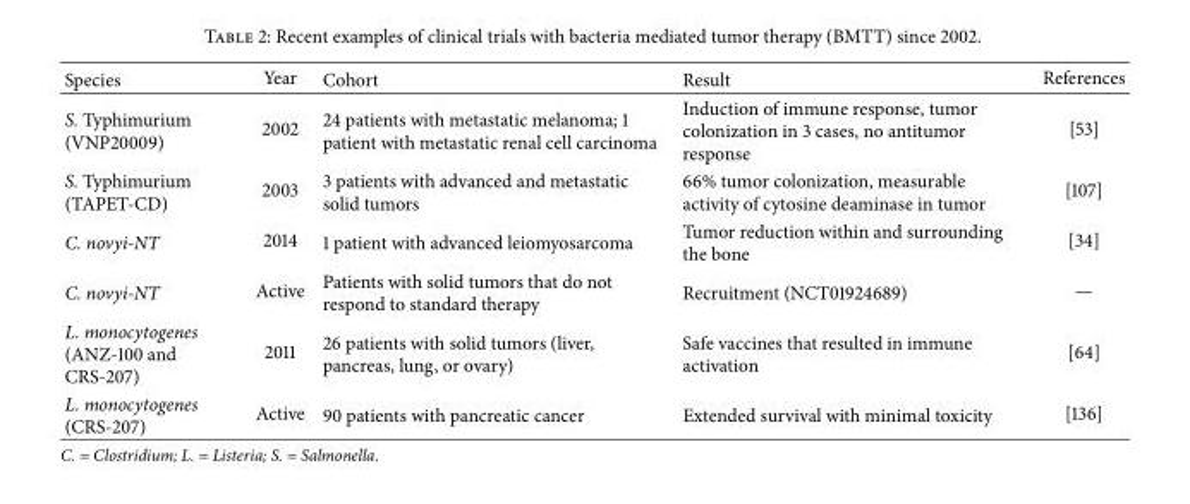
<table><thead><tr><td>Species</td><td>Year</td><td>Cohort</td><td>Result</td><td>References</td></tr></thead><tbody><tr><td>S. Typhimurium (VNP20009)</td><td>2002</td><td>24 patients with metastatic melanoma; 1 patient with metastatic renal cell carcinoma</td><td>Induction of immune response, tumor colonization in 3 cases, no antitumor response</td><td>[53]</td></tr><tr><td>S. Typhimurium (TAPET-CD)</td><td>2003</td><td>3 patients with advanced and metastatic solid tumors</td><td>66% tumor colonization, measurable activity of cytosine deaminase in tumor</td><td>[107]</td></tr><tr><td>C. novyi-NT</td><td>2014</td><td>1 patient with advanced leiomyosarcoma</td><td>Tumor reduction within and surrounding the bone</td><td>[34]</td></tr><tr><td>C. novyi-NT</td><td>Active</td><td>Patients with solid tumors that do not respond to standard therapy</td><td>Recruitment (NCT01924689)</td><td>—</td></tr><tr><td>L. monocytogenes (ANZ-100 and CRS-207)</td><td>2011</td><td>26 patients with solid tumors (liver, pancreas, lung, or ovary)</td><td>Safe vaccines that resulted in immune activation</td><td>[64]</td></tr><tr><td>L. monocytogenes (CRS-207)</td><td>Active</td><td>90 patients with pancreatic cancer</td><td>Extended survival with minimal toxicity</td><td>[136]</td></tr></tbody></table>